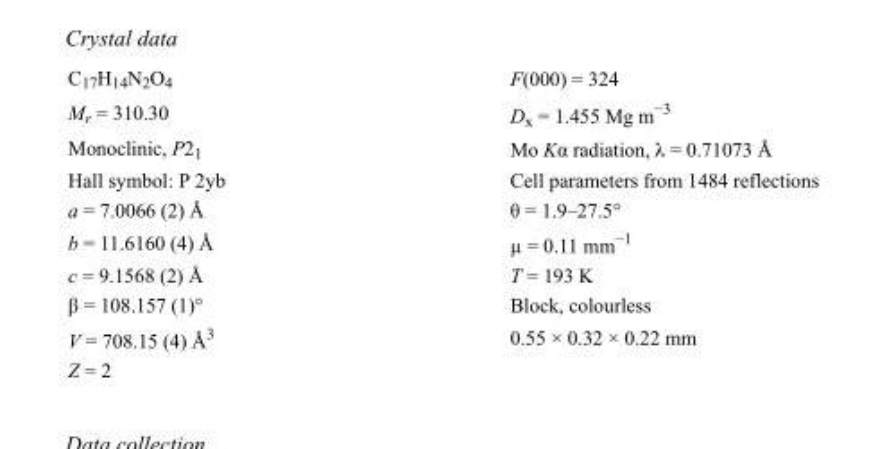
<table><tbody><tr><td>C<sub>17</sub>H<sub>14</sub>N<sub>2</sub>O<sub>4</sub></td><td>F(000) = 324</td></tr><tr><td>M<sub>r</sub> = 310.30</td><td>D<sub>x</sub> = 1.455 Mg m<sup>−3</sup></td></tr><tr><td>Monoclinic, P2<sub>1</sub></td><td>Mo Kα radiation, λ = 0.71073 Å</td></tr><tr><td>Hall symbol: P 2yb</td><td>Cell parameters from 1484 reflections</td></tr><tr><td>a = 7.0066 (2) Å</td><td>θ = 1.9–27.5°</td></tr><tr><td>b = 11.6160 (4) Å</td><td>µ = 0.11 mm<sup>−1</sup></td></tr><tr><td>c = 9.1568 (2) Å</td><td>T = 193 K</td></tr><tr><td>β = 108.157 (1)°</td><td>Block, colourless</td></tr><tr><td>V = 708.15 (4) Å<sup>3</sup></td><td>0.55 × 0.32 × 0.22 mm</td></tr><tr><td>Z = 2</td><td></td></tr></tbody></table>